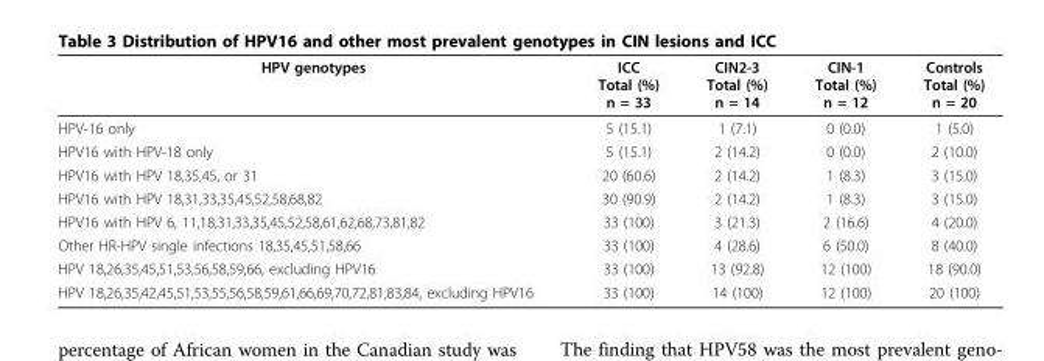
<table><thead><tr><td>HPV genotypes</td><td>ICC Total (%) n = 33</td><td>CIN2-3 Total (%) n = 14</td><td>CIN-1 Total (%) n = 12</td><td>Controls Total (%) n = 20</td></tr></thead><tbody><tr><td>HPV-16 only</td><td>5 (15.1)</td><td>1 (7.1)</td><td>0 (0.0)</td><td>1 (5.0)</td></tr><tr><td>HPV16 with HPV-18 only</td><td>5 (15.1)</td><td>2 (14.2)</td><td>0 (0.0)</td><td>2 (10.0)</td></tr><tr><td>HPV16 with HPV 18,35,45, or 31</td><td>20 (60.6)</td><td>2 (14.2)</td><td>1 (8.3)</td><td>3 (15.0)</td></tr><tr><td>HPV16 with HPV 18,31,33,35,45,52,58,68,82</td><td>30 (90.9)</td><td>2 (14.2)</td><td>1 (8.3)</td><td>3 (15.0)</td></tr><tr><td>HPV16 with HPV 6, 11,18,31,33,35,45,52,58,61,62,68,73,81,82</td><td>33 (100)</td><td>3 (21.3)</td><td>2 (16.6)</td><td>4 (20.0)</td></tr><tr><td>Other HR-HPV single infections 18,35,45,51,58,66</td><td>33 (100)</td><td>4 (28.6)</td><td>6 (50.0)</td><td>8 (40.0)</td></tr><tr><td>HPV 18,26,35,45,51,53,56,58,59,66, excluding HPV16</td><td>33 (100)</td><td>13 (92.8)</td><td>12 (100)</td><td>18 (90.0)</td></tr><tr><td>HPV 18,26,35,42,45,51,53,55,56,58,59,61,66,69,70,72,81,83,84, excluding HPV16</td><td>33 (100)</td><td>14 (100)</td><td>12 (100)</td><td>20 (100)</td></tr></tbody></table>